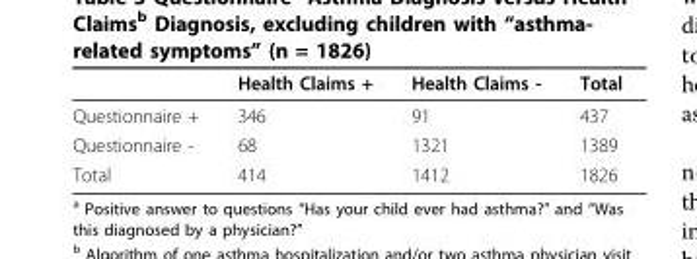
<table><thead><tr><td></td><td>Health Claims +</td><td>Health Claims -</td><td>Total</td></tr></thead><tbody><tr><td>Questionnaire +</td><td>346</td><td>91</td><td>437</td></tr><tr><td>Questionnaire -</td><td>68</td><td>1321</td><td>1389</td></tr><tr><td>Total</td><td>414</td><td>1412</td><td>1826</td></tr></tbody></table>